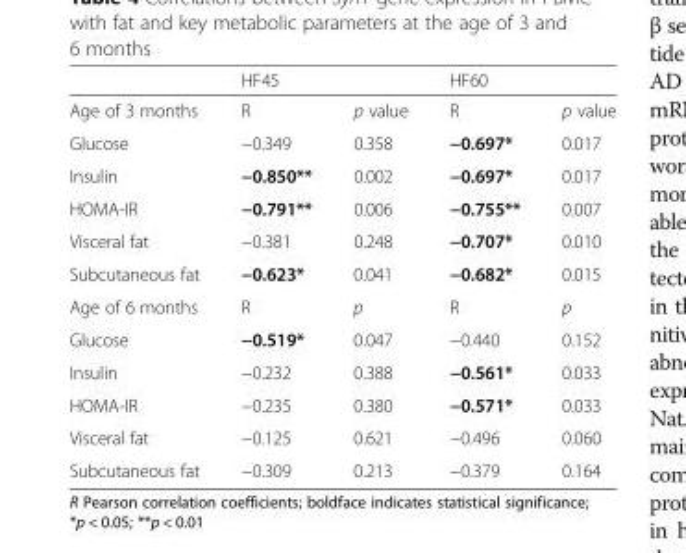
<table><thead><tr><td rowspan="2">Age of 3 months</td><td colspan="2">HF45</td><td colspan="2">HF60</td></tr><tr><td>R</td><td>p value</td><td>R</td><td>p value</td></tr></thead><tbody><tr><td>Glucose</td><td>−0.349</td><td>0.358</td><td>−0.697*</td><td>0.017</td></tr><tr><td>Insulin</td><td>−0.850**</td><td>0.002</td><td>−0.697*</td><td>0.017</td></tr><tr><td>HOMA-IR</td><td>−0.791**</td><td>0.006</td><td>−0.755**</td><td>0.007</td></tr><tr><td>Visceral fat</td><td>−0.381</td><td>0.248</td><td>−0.707*</td><td>0.010</td></tr><tr><td>Subcutaneous fat</td><td>−0.623*</td><td>0.041</td><td>−0.682*</td><td>0.015</td></tr><tr><td>Age of 6 months</td><td>R</td><td>p</td><td>R</td><td>p</td></tr><tr><td>Glucose</td><td>−0.519*</td><td>0.047</td><td>−0.440</td><td>0.152</td></tr><tr><td>Insulin</td><td>−0.232</td><td>0.388</td><td>−0.561*</td><td>0.033</td></tr><tr><td>HOMA-IR</td><td>−0.235</td><td>0.380</td><td>−0.571*</td><td>0.033</td></tr><tr><td>Visceral fat</td><td>−0.125</td><td>0.621</td><td>−0.496</td><td>0.060</td></tr><tr><td>Subcutaneous fat</td><td>−0.309</td><td>0.213</td><td>−0.379</td><td>0.164</td></tr></tbody></table>